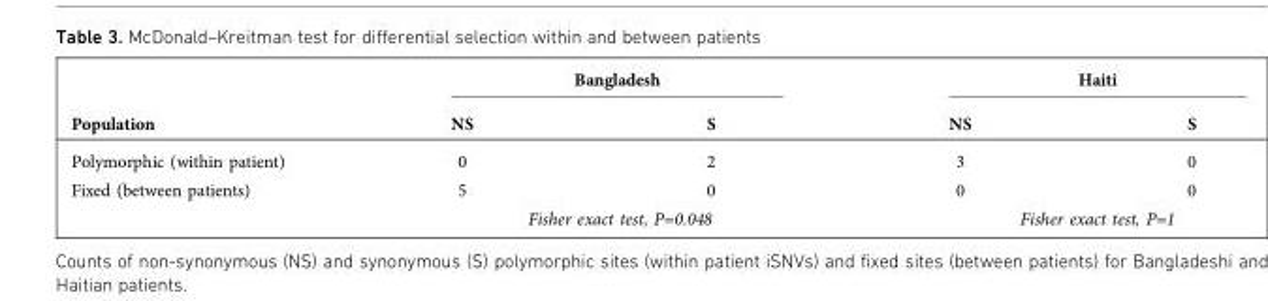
<table><thead><tr><td rowspan="2">Population</td><td colspan="2">Bangladesh</td><td colspan="2">Haiti</td></tr><tr><td>NS</td><td>S</td><td>NS</td><td>S</td></tr></thead><tbody><tr><td>Polymorphic (within patient)</td><td>0</td><td>2</td><td>3</td><td>0</td></tr><tr><td rowspan="2">Fixed (between patients)</td><td>5</td><td>0</td><td>0</td><td>0</td></tr><tr><td colspan="2">Fisher exact test, P=0.048</td><td colspan="2">Fisher exact test, P=1</td></tr></tbody></table>